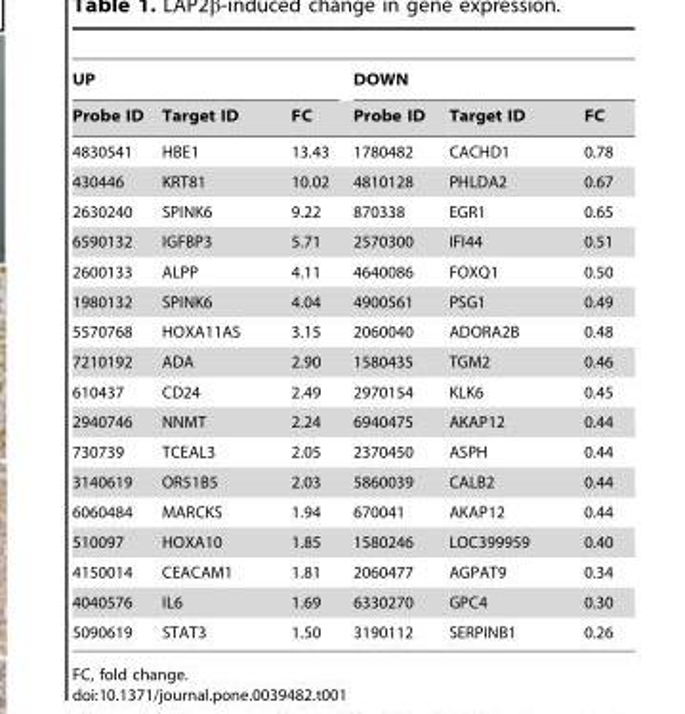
<table><thead><tr><td colspan="3">UP</td><td colspan="3">DOWN</td></tr><tr><td>Probe ID</td><td>Target ID</td><td>FC</td><td>Probe ID</td><td>Target ID</td><td>FC</td></tr></thead><tbody><tr><td>4830541</td><td>HBE1</td><td>13.43</td><td>1780482</td><td>CACHD1</td><td>0.78</td></tr><tr><td>430446</td><td>KRT81</td><td>10.02</td><td>4810128</td><td>PHLDA2</td><td>0.67</td></tr><tr><td>2630240</td><td>SPINK6</td><td>9.22</td><td>870338</td><td>EGR1</td><td>0.65</td></tr><tr><td>6590132</td><td>IGFBP3</td><td>5.71</td><td>2570300</td><td>IFI44</td><td>0.51</td></tr><tr><td>2600133</td><td>ALPP</td><td>4.11</td><td>4640086</td><td>FOXQ1</td><td>0.50</td></tr><tr><td>1980132</td><td>SPINK6</td><td>4.04</td><td>4900561</td><td>PSG1</td><td>0.49</td></tr><tr><td>5570768</td><td>HOXA11AS</td><td>3.15</td><td>2060040</td><td>ADORA2B</td><td>0.48</td></tr><tr><td>7210192</td><td>ADA</td><td>2.90</td><td>1580435</td><td>TGM2</td><td>0.46</td></tr><tr><td>610437</td><td>CD24</td><td>2.49</td><td>2970154</td><td>KLK6</td><td>0.45</td></tr><tr><td>2940746</td><td>NNMT</td><td>2.24</td><td>6940475</td><td>AKAP12</td><td>0.44</td></tr><tr><td>730739</td><td>TCEAL3</td><td>2.05</td><td>2370450</td><td>ASPH</td><td>0.44</td></tr><tr><td>3140619</td><td>OR51B5</td><td>2.03</td><td>5860039</td><td>CALB2</td><td>0.44</td></tr><tr><td>6060484</td><td>MARCKS</td><td>1.94</td><td>670041</td><td>AKAP12</td><td>0.44</td></tr><tr><td>510097</td><td>HOXA10</td><td>1.85</td><td>1580246</td><td>LOC399959</td><td>0.40</td></tr><tr><td>4150014</td><td>CEACAM1</td><td>1.81</td><td>2060477</td><td>AGPAT9</td><td>0.34</td></tr><tr><td>4040576</td><td>IL6</td><td>1.69</td><td>6330270</td><td>GPC4</td><td>0.30</td></tr><tr><td>5090619</td><td>STAT3</td><td>1.50</td><td>3190112</td><td>SERPINB1</td><td>0.26</td></tr></tbody></table>